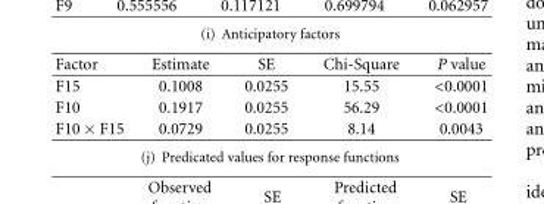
<table><thead><tr><td>Factor</td><td>Estimate</td><td>SE</td><td>Chi-Square</td><td>P value</td></tr></thead><tbody><tr><td>F15</td><td>0.1008</td><td>0.0255</td><td>15.55</td><td>&lt;0.0001</td></tr><tr><td>F10</td><td>0.1917</td><td>0.0255</td><td>56.29</td><td>&lt;0.0001</td></tr><tr><td>F10 × F15</td><td>0.0729</td><td>0.0255</td><td>8.14</td><td>0.0043</td></tr></tbody></table>